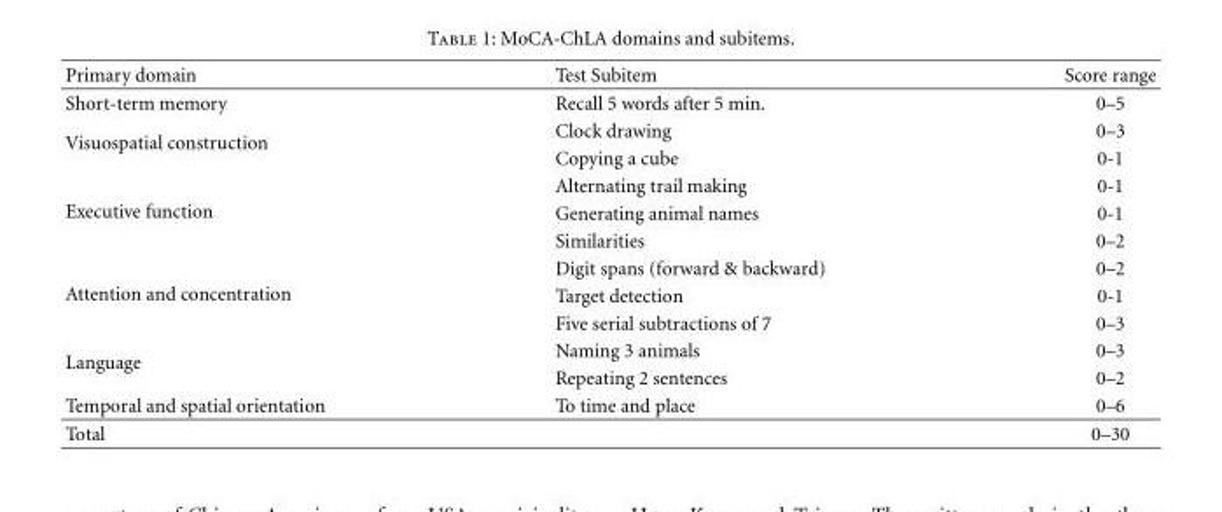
<table><thead><tr><td>Primary domain</td><td>Test Subitem</td><td>Score range</td></tr></thead><tbody><tr><td>Short-term memory</td><td>Recall 5 words after 5 min.</td><td>0–5</td></tr><tr><td rowspan="2">Visuospatial construction</td><td>Clock drawing</td><td>0–3</td></tr><tr><td>Copying a cube</td><td>0-1</td></tr><tr><td rowspan="3">Executive function</td><td>Alternating trail making</td><td>0-1</td></tr><tr><td>Generating animal names</td><td>0-1</td></tr><tr><td>Similarities</td><td>0–2</td></tr><tr><td rowspan="3">Attention and concentration</td><td>Digit spans (forward &amp; backward)</td><td>0–2</td></tr><tr><td>Target detection</td><td>0-1</td></tr><tr><td>Five serial subtractions of 7</td><td>0–3</td></tr><tr><td rowspan="2">Language</td><td>Naming 3 animals</td><td>0–3</td></tr><tr><td>Repeating 2 sentences</td><td>0–2</td></tr><tr><td>Temporal and spatial orientation</td><td>To time and place</td><td>0–6</td></tr><tr><td>Total</td><td></td><td>0–30</td></tr></tbody></table>